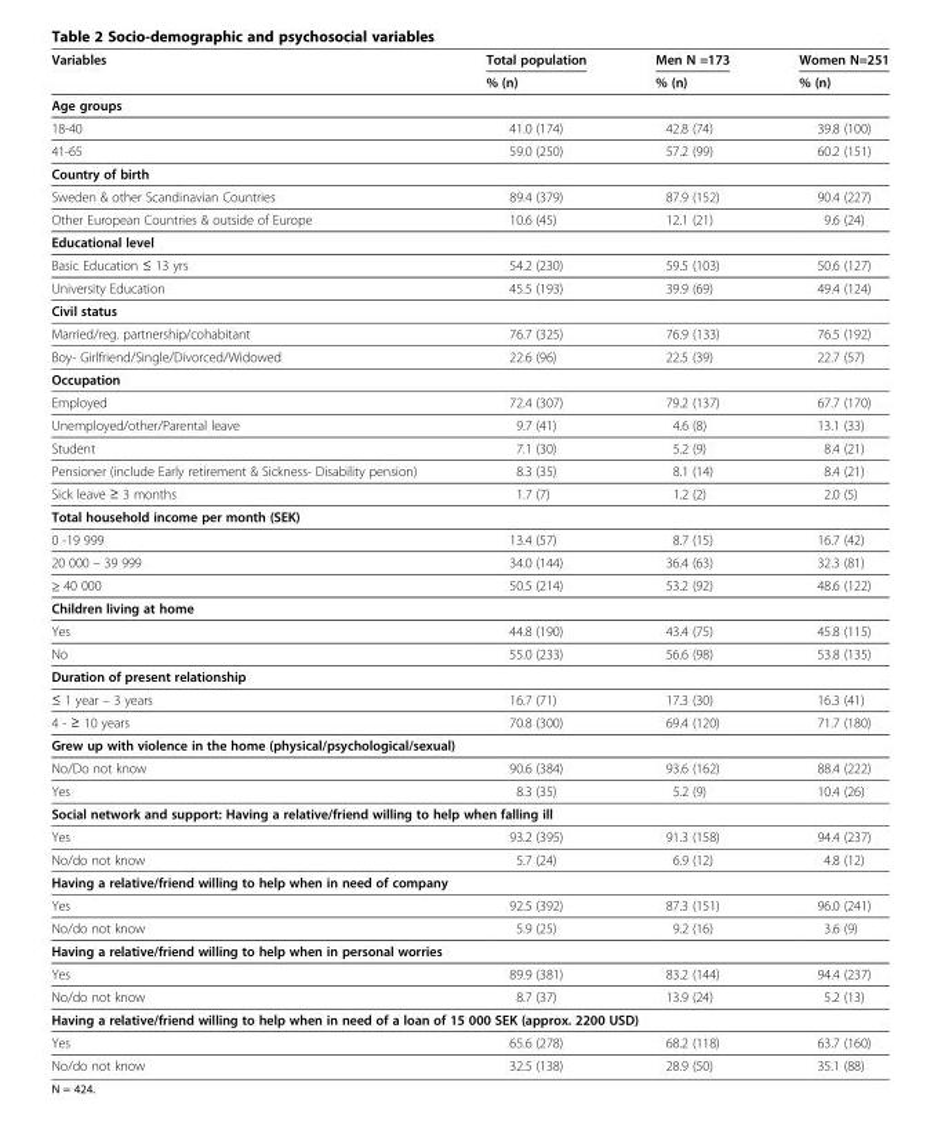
<table><thead><tr><td rowspan="2">Variables</td><td rowspan="2">Total population % (n)</td><td rowspan="2">Men N =173 % (n)</td><td rowspan="2">Women N=251 % (n)</td></tr><tr></tr></thead><tbody><tr><td colspan="4">Age groups</td></tr><tr><td>18-40</td><td>41.0 (174)</td><td>42.8 (74)</td><td>39.8 (100)</td></tr><tr><td>41-65</td><td>59.0 (250)</td><td>57.2 (99)</td><td>60.2 (151)</td></tr><tr><td colspan="4">Country of birth</td></tr><tr><td>Sweden &amp; other Scandinavian Countries</td><td>89.4 (379)</td><td>87.9 (152)</td><td>90.4 (227)</td></tr><tr><td>Other European Countries &amp; outside of Europe</td><td>10.6 (45)</td><td>12.1 (21)</td><td>9.6 (24)</td></tr><tr><td colspan="4">Educational level</td></tr><tr><td>Basic Education ≤ 13 yrs</td><td>54.2 (230)</td><td>59.5 (103)</td><td>50.6 (127)</td></tr><tr><td>University Education</td><td>45.5 (193)</td><td>39.9 (69)</td><td>49.4 (124)</td></tr><tr><td colspan="4">Civil status</td></tr><tr><td>Married/reg. partnership/cohabitant</td><td>76.7 (325)</td><td>76.9 (133)</td><td>76.5 (192)</td></tr><tr><td>Boy- Girlfriend/Single/Divorced/Widowed</td><td>22.6 (96)</td><td>22.5 (39)</td><td>22.7 (57)</td></tr><tr><td colspan="4">Occupation</td></tr><tr><td>Employed</td><td>72.4 (307)</td><td>79.2 (137)</td><td>67.7 (170)</td></tr><tr><td>Unemployed/other/Parental leave</td><td>9.7 (41)</td><td>4.6 (8)</td><td>13.1 (33)</td></tr><tr><td>Student</td><td>7.1 (30)</td><td>5.2 (9)</td><td>8.4 (21)</td></tr><tr><td>Pensioner (include Early retirement &amp; Sickness- Disability pension)</td><td>8.3 (35)</td><td>8.1 (14)</td><td>8.4 (21)</td></tr><tr><td>Sick leave ≥ 3 months</td><td>1.7 (7)</td><td>1.2 (2)</td><td>2.0 (5)</td></tr><tr><td colspan="4">Total household income per month (SEK)</td></tr><tr><td>0 -19 999</td><td>13.4 (57)</td><td>8.7 (15)</td><td>16.7 (42)</td></tr><tr><td>20 000 – 39 999</td><td>34.0 (144)</td><td>36.4 (63)</td><td>32.3 (81)</td></tr><tr><td>≥ 40 000</td><td>50.5 (214)</td><td>53.2 (92)</td><td>48.6 (122)</td></tr><tr><td colspan="4">Children living at home</td></tr><tr><td>Yes</td><td>44.8 (190)</td><td>43.4 (75)</td><td>45.8 (115)</td></tr><tr><td>No</td><td>55.0 (233)</td><td>56.6 (98)</td><td>53.8 (135)</td></tr><tr><td colspan="4">Duration of present relationship</td></tr><tr><td>≤ 1 year – 3 years</td><td>16.7 (71)</td><td>17.3 (30)</td><td>16.3 (41)</td></tr><tr><td>4 - ≥ 10 years</td><td>70.8 (300)</td><td>69.4 (120)</td><td>71.7 (180)</td></tr><tr><td colspan="4">Grew up with violence in the home (physical/psychological/sexual)</td></tr><tr><td>No/Do not know</td><td>90.6 (384)</td><td>93.6 (162)</td><td>88.4 (222)</td></tr><tr><td>Yes</td><td>8.3 (35)</td><td>5.2 (9)</td><td>10.4 (26)</td></tr><tr><td colspan="4">Social network and support: Having a relative/friend willing to help when falling ill</td></tr><tr><td>Yes</td><td>93.2 (395)</td><td>91.3 (158)</td><td>94.4 (237)</td></tr><tr><td>No/do not know</td><td>5.7 (24)</td><td>6.9 (12)</td><td>4.8 (12)</td></tr><tr><td colspan="4">Having a relative/friend willing to help when in need of company</td></tr><tr><td>Yes</td><td>92.5 (392)</td><td>87.3 (151)</td><td>96.0 (241)</td></tr><tr><td>No/do not know</td><td>5.9 (25)</td><td>9.2 (16)</td><td>3.6 (9)</td></tr><tr><td colspan="4">Having a relative/friend willing to help when in personal worries</td></tr><tr><td>Yes</td><td>89.9 (381)</td><td>83.2 (144)</td><td>94.4 (237)</td></tr><tr><td>No/do not know</td><td>8.7 (37)</td><td>13.9 (24)</td><td>5.2 (13)</td></tr><tr><td colspan="4">Having a relative/friend willing to help when in need of a loan of 15 000 SEK (approx. 2200 USD)</td></tr><tr><td>Yes</td><td>65.6 (278)</td><td>68.2 (118)</td><td>63.7 (160)</td></tr><tr><td>No/do not know</td><td>32.5 (138)</td><td>28.9 (50)</td><td>35.1 (88)</td></tr></tbody></table>